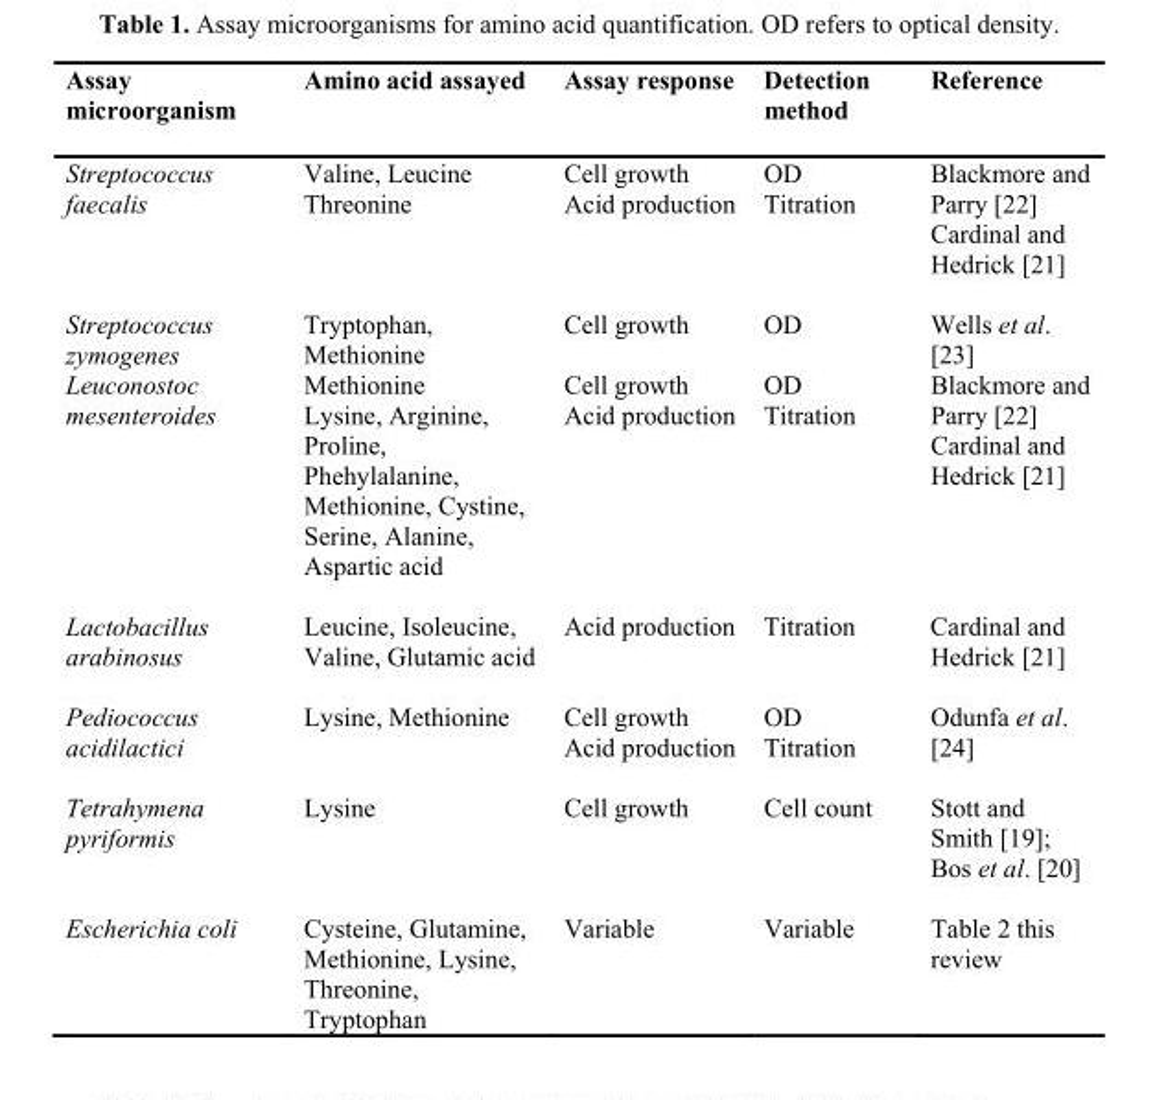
<table><thead><tr><td>Assay microorganism</td><td>Amino acid assayed</td><td>Assay response</td><td>Detection method</td><td>Reference</td></tr></thead><tbody><tr><td>Streptococcus faecalis</td><td>Valine, Leucine Threonine</td><td>Cell growth Acid production</td><td>OD Titration</td><td>Blackmore and Parry [22] Cardinal and Hedrick [21]</td></tr><tr><td>Streptococcus zymogenes</td><td>Tryptophan, Methionine</td><td>Cell growth</td><td>OD</td><td>Wells et al. [23]</td></tr><tr><td>Leuconostoc mesenteroides</td><td>Methionine Lysine, Arginine, Proline, Phehylalanine, Methionine, Cystine, Serine, Alanine, Aspartic acid</td><td>Cell growth Acid production</td><td>OD Titration</td><td>Blackmore and Parry [22] Cardinal and Hedrick [21]</td></tr><tr><td>Lactobacillus arabinosus</td><td>Leucine, Isoleucine, Valine, Glutamic acid</td><td>Acid production</td><td>Titration</td><td>Cardinal and Hedrick [21]</td></tr><tr><td>Pediococcus acidilactici</td><td>Lysine, Methionine</td><td>Cell growth Acid production</td><td>OD Titration</td><td>Odunfa et al. [24]</td></tr><tr><td>Tetrahymena pyriformis</td><td>Lysine</td><td>Cell growth</td><td>Cell count</td><td>Stott and Smith [19]; Bos et al. [20]</td></tr><tr><td>Escherichia coli</td><td>Cysteine, Glutamine, Methionine, Lysine, Threonine, Tryptophan</td><td>Variable</td><td>Variable</td><td>Table 2 this review</td></tr></tbody></table>